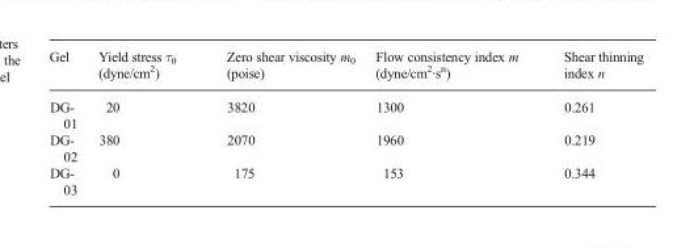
<table><thead><tr><td>Gel</td><td>Yield stress τ<sub>0</sub> (dyne/cm<sup>2</sup>)</td><td>Zero shear viscosity m<sub>0</sub> (poise)</td><td>Flow consistency index m (dyne/cm<sup>2</sup>·s<sup>n</sup>)</td><td>Shear thinning index n</td></tr></thead><tbody><tr><td>DG- 01</td><td>20</td><td>3820</td><td>1300</td><td>0.261</td></tr><tr><td>DG- 02</td><td>380</td><td>2070</td><td>1960</td><td>0.219</td></tr><tr><td>DG- 03</td><td>0</td><td>175</td><td>153</td><td>0.344</td></tr></tbody></table>